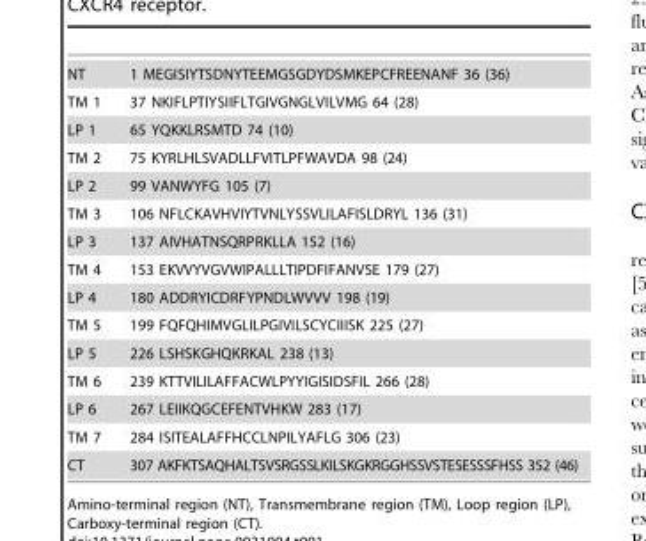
<table><tbody><tr><td>NT</td><td>1 MEGISIYTSDNYTEEMGSGDYDSMKEPCFREENANF 36 (36)</td></tr><tr><td>TM 1</td><td>37 NKIFLPTIYSIIFLTGIVGNGLVILVMG 64 (28)</td></tr><tr><td>LP 1</td><td>65 YQKKLRSMTD 74 (10)</td></tr><tr><td>TM 2</td><td>75 KYRLHLSVADLLFVITLPFWAVDA 98 (24)</td></tr><tr><td>LP 2</td><td>99 VANWYFG 105 (7)</td></tr><tr><td>TM 3</td><td>106 NFLCKAVHVIYTVNLYSSVLILAFISLDRYL 136 (31)</td></tr><tr><td>LP 3</td><td>137 AIVHATNSQRPRKLLA 152 (16)</td></tr><tr><td>TM 4</td><td>153 EKVVYVGVWIPALLLTIPDFIFANVSE 179 (27)</td></tr><tr><td>LP 4</td><td>180 ADDRYICDRFYPNDLWVVV 198 (19)</td></tr><tr><td>TM 5</td><td>199 FQFQHIMVGLILPGIVILSCYCIIISK 225 (27)</td></tr><tr><td>LP 5</td><td>226 LSHSKGHQKRKAL 238 (13)</td></tr><tr><td>TM 6</td><td>239 KTTVILILAFFACWLPYYIGISIDSFIL 266 (28)</td></tr><tr><td>LP 6</td><td>267 LEIIKQGCEFENTVHKW 283 (17)</td></tr><tr><td>TM 7</td><td>284 ISITEALAFFHCCLNPILYAFLG 306 (23)</td></tr><tr><td>CT</td><td>307 AKFKTSAQHALTSVSRGSSLKILSKGKRGGHSSVSTESESSSFHSS 352 (46)</td></tr></tbody></table>